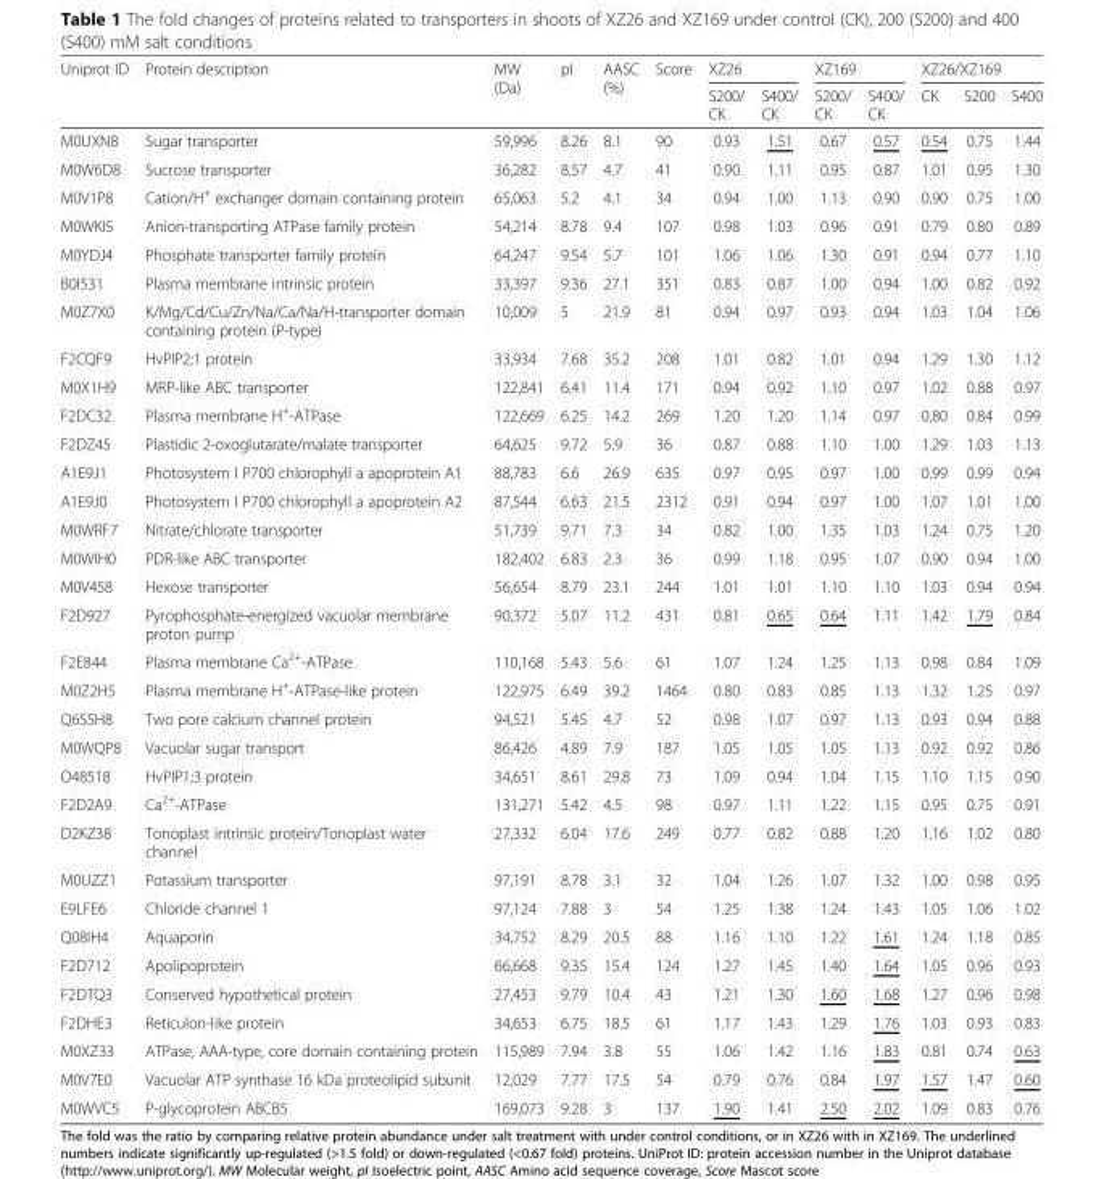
<table><thead><tr><td rowspan="2">Uniprot ID</td><td rowspan="2">Protein description</td><td rowspan="2">MW (Da)</td><td rowspan="2">pI</td><td rowspan="2">AASC (%)</td><td rowspan="2">Score</td><td colspan="2">XZ26</td><td colspan="2">XZ169</td><td colspan="3">XZ26/XZ169</td></tr><tr><td>S200/ CK</td><td>S400/ CK</td><td>S200/ CK</td><td>S400/ CK</td><td>CK</td><td>S200</td><td>S400</td></tr></thead><tbody><tr><td>M0UXN8</td><td>Sugar transporter</td><td>59,996</td><td>8.26</td><td>8.1</td><td>90</td><td>0.93</td><td>1.51</td><td>0.67</td><td>0.57</td><td>0.54</td><td>0.75</td><td>1.44</td></tr><tr><td>M0W6D8</td><td>Sucrose transporter</td><td>36,282</td><td>8.57</td><td>4.7</td><td>41</td><td>0.90</td><td>1.11</td><td>0.95</td><td>0.87</td><td>1.01</td><td>0.95</td><td>1.30</td></tr><tr><td>M0V1P8</td><td>Cation/H<sup>+</sup> exchanger domain containing protein</td><td>65,063</td><td>5.2</td><td>4.1</td><td>34</td><td>0.94</td><td>1.00</td><td>1.13</td><td>0.90</td><td>0.90</td><td>0.75</td><td>1.00</td></tr><tr><td>M0WKI5</td><td>Anion-transporting ATPase family protein</td><td>54,214</td><td>8.78</td><td>9.4</td><td>107</td><td>0.98</td><td>1.03</td><td>0.96</td><td>0.91</td><td>0.79</td><td>0.80</td><td>0.89</td></tr><tr><td>M0YDJ4</td><td>Phosphate transporter family protein</td><td>64,247</td><td>9.54</td><td>5.7</td><td>101</td><td>1.06</td><td>1.06</td><td>1.30</td><td>0.91</td><td>0.94</td><td>0.77</td><td>1.10</td></tr><tr><td>B0I531</td><td>Plasma membrane intrinsic protein</td><td>33,397</td><td>9.36</td><td>27.1</td><td>351</td><td>0.83</td><td>0.87</td><td>1.00</td><td>0.94</td><td>1.00</td><td>0.82</td><td>0.92</td></tr><tr><td>M0Z7X0</td><td>K/Mg/Cd/Cu/Zn/Na/Ca/Na/H-transporter domain containing protein (P-type)</td><td>10,009</td><td>5</td><td>21.9</td><td>81</td><td>0.94</td><td>0.97</td><td>0.93</td><td>0.94</td><td>1.03</td><td>1.04</td><td>1.06</td></tr><tr><td>F2CQF9</td><td>HvPIP2;1 protein</td><td>33,934</td><td>7.68</td><td>35.2</td><td>208</td><td>1.01</td><td>0.82</td><td>1.01</td><td>0.94</td><td>1.29</td><td>1.30</td><td>1.12</td></tr><tr><td>M0X1H9</td><td>MRP-like ABC transporter</td><td>122,841</td><td>6.41</td><td>11.4</td><td>171</td><td>0.94</td><td>0.92</td><td>1.10</td><td>0.97</td><td>1.02</td><td>0.88</td><td>0.97</td></tr><tr><td>F2DC32</td><td>Plasma membrane H<sup>+</sup>-ATPase</td><td>122,669</td><td>6.25</td><td>14.2</td><td>269</td><td>1.20</td><td>1.20</td><td>1.14</td><td>0.97</td><td>0.80</td><td>0.84</td><td>0.99</td></tr><tr><td>F2DZ45</td><td>Plastidic 2-oxoglutarate/malate transporter</td><td>64,625</td><td>9.72</td><td>5.9</td><td>36</td><td>0.87</td><td>0.88</td><td>1.10</td><td>1.00</td><td>1.29</td><td>1.03</td><td>1.13</td></tr><tr><td>A1E9J1</td><td>Photosystem I P700 chlorophyll a apoprotein A1</td><td>88,783</td><td>6.6</td><td>26.9</td><td>635</td><td>0.97</td><td>0.95</td><td>0.97</td><td>1.00</td><td>0.99</td><td>0.99</td><td>0.94</td></tr><tr><td>A1E9J0</td><td>Photosystem I P700 chlorophyll a apoprotein A2</td><td>87,544</td><td>6.63</td><td>21.5</td><td>2312</td><td>0.91</td><td>0.94</td><td>0.97</td><td>1.00</td><td>1.07</td><td>1.01</td><td>1.00</td></tr><tr><td>M0WRF7</td><td>Nitrate/chlorate transporter</td><td>51,739</td><td>9.71</td><td>7.3</td><td>34</td><td>0.82</td><td>1.00</td><td>1.35</td><td>1.03</td><td>1.24</td><td>0.75</td><td>1.20</td></tr><tr><td>M0WIH0</td><td>PDR-like ABC transporter</td><td>182,402</td><td>6.83</td><td>2.3</td><td>36</td><td>0.99</td><td>1.18</td><td>0.95</td><td>1.07</td><td>0.90</td><td>0.94</td><td>1.00</td></tr><tr><td>M0V458</td><td>Hexose transporter</td><td>56,654</td><td>8.79</td><td>23.1</td><td>244</td><td>1.01</td><td>1.01</td><td>1.10</td><td>1.10</td><td>1.03</td><td>0.94</td><td>0.94</td></tr><tr><td>F2D927</td><td>Pyrophosphate-energized vacuolar membrane proton pump</td><td>90,372</td><td>5.07</td><td>11.2</td><td>431</td><td>0.81</td><td>0.65</td><td>0.64</td><td>1.11</td><td>1.42</td><td>1.79</td><td>0.84</td></tr><tr><td>F2E844</td><td>Plasma membrane Ca<sup>2+</sup>-ATPase</td><td>110,168</td><td>5.43</td><td>5.6</td><td>61</td><td>1.07</td><td>1.24</td><td>1.25</td><td>1.13</td><td>0.98</td><td>0.84</td><td>1.09</td></tr><tr><td>M0Z2H5</td><td>Plasma membrane H<sup>+</sup>-ATPase-like protein</td><td>122,975</td><td>6.49</td><td>39.2</td><td>1464</td><td>0.80</td><td>0.83</td><td>0.85</td><td>1.13</td><td>1.32</td><td>1.25</td><td>0.97</td></tr><tr><td>Q6S5H8</td><td>Two pore calcium channel protein</td><td>94,521</td><td>5.45</td><td>4.7</td><td>52</td><td>0.98</td><td>1.07</td><td>0.97</td><td>1.13</td><td>0.93</td><td>0.94</td><td>0.88</td></tr><tr><td>M0WQP8</td><td>Vacuolar sugar transport</td><td>86,426</td><td>4.89</td><td>7.9</td><td>187</td><td>1.05</td><td>1.05</td><td>1.05</td><td>1.13</td><td>0.92</td><td>0.92</td><td>0.86</td></tr><tr><td>O48518</td><td>HvPIP1;3 protein</td><td>34,651</td><td>8.61</td><td>29.8</td><td>73</td><td>1.09</td><td>0.94</td><td>1.04</td><td>1.15</td><td>1.10</td><td>1.15</td><td>0.90</td></tr><tr><td>F2D2A9</td><td>Ca<sup>2+</sup>-ATPase</td><td>131,271</td><td>5.42</td><td>4.5</td><td>98</td><td>0.97</td><td>1.11</td><td>1.22</td><td>1.15</td><td>0.95</td><td>0.75</td><td>0.91</td></tr><tr><td>D2KZ38</td><td>Tonoplast intrinsic protein/Tonoplast water channel</td><td>27,332</td><td>6.04</td><td>17.6</td><td>249</td><td>0.77</td><td>0.82</td><td>0.88</td><td>1.20</td><td>1.16</td><td>1.02</td><td>0.80</td></tr><tr><td>M0UZZ1</td><td>Potassium transporter</td><td>97,191</td><td>8.78</td><td>3.1</td><td>32</td><td>1.04</td><td>1.26</td><td>1.07</td><td>1.32</td><td>1.00</td><td>0.98</td><td>0.95</td></tr><tr><td>E9LFE6</td><td>Chloride channel 1</td><td>97,124</td><td>7.88</td><td>3</td><td>54</td><td>1.25</td><td>1.38</td><td>1.24</td><td>1.43</td><td>1.05</td><td>1.06</td><td>1.02</td></tr><tr><td>Q08IH4</td><td>Aquaporin</td><td>34,752</td><td>8.29</td><td>20.5</td><td>88</td><td>1.16</td><td>1.10</td><td>1.22</td><td>1.61</td><td>1.24</td><td>1.18</td><td>0.85</td></tr><tr><td>F2D712</td><td>Apolipoprotein</td><td>66,668</td><td>9.35</td><td>15.4</td><td>124</td><td>1.27</td><td>1.45</td><td>1.40</td><td>1.64</td><td>1.05</td><td>0.96</td><td>0.93</td></tr><tr><td>F2DTQ3</td><td>Conserved hypothetical protein</td><td>27,453</td><td>9.79</td><td>10.4</td><td>43</td><td>1.21</td><td>1.30</td><td>1.60</td><td>1.68</td><td>1.27</td><td>0.96</td><td>0.98</td></tr><tr><td>F2DHE3</td><td>Reticulon-like protein</td><td>34,653</td><td>6.75</td><td>18.5</td><td>61</td><td>1.17</td><td>1.43</td><td>1.29</td><td>1.76</td><td>1.03</td><td>0.93</td><td>0.83</td></tr><tr><td>M0XZ33</td><td>ATPase, AAA-type, core domain containing protein</td><td>115,989</td><td>7.94</td><td>3.8</td><td>55</td><td>1.06</td><td>1.42</td><td>1.16</td><td>1.83</td><td>0.81</td><td>0.74</td><td>0.63</td></tr><tr><td>M0V7E0</td><td>Vacuolar ATP synthase 16 kDa proteolipid subunit</td><td>12,029</td><td>7.77</td><td>17.5</td><td>54</td><td>0.79</td><td>0.76</td><td>0.84</td><td>1.97</td><td>1.57</td><td>1.47</td><td>0.60</td></tr><tr><td>M0WVC5</td><td>P-glycoprotein ABCB5</td><td>169,073</td><td>9.28</td><td>3</td><td>137</td><td>1.90</td><td>1.41</td><td>2.50</td><td>2.02</td><td>1.09</td><td>0.83</td><td>0.76</td></tr></tbody></table>